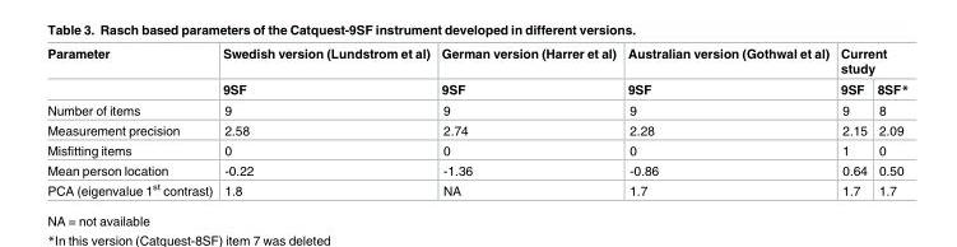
<table><thead><tr><td rowspan="2">Parameter</td><td rowspan="2">Swedish version (Lundstrom et al) 9SF</td><td rowspan="2">German version (Harrer et al) 9SF</td><td rowspan="2">Australian version (Gothwal et al) 9SF</td><td colspan="2">Current study</td></tr><tr><td>9SF</td><td>8SF*</td></tr></thead><tbody><tr><td>Number of items</td><td>9</td><td>9</td><td>9</td><td>9</td><td>8</td></tr><tr><td>Measurement precision</td><td>2.58</td><td>2.74</td><td>2.28</td><td>2.15</td><td>2.09</td></tr><tr><td>Misfitting items</td><td>0</td><td>0</td><td>0</td><td>1</td><td>0</td></tr><tr><td>Mean person location</td><td>-0.22</td><td>-1.36</td><td>-0.86</td><td>0.64</td><td>0.50</td></tr><tr><td>PCA (eigenvalue 1<sup>st</sup> contrast)</td><td>1.8</td><td>NA</td><td>1.7</td><td>1.7</td><td>1.7</td></tr></tbody></table>